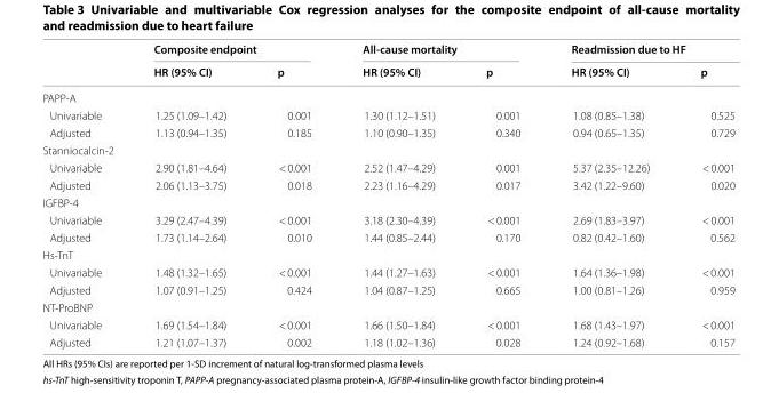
<table><thead><tr><td rowspan="2"></td><td colspan="2">Composite endpoint</td><td colspan="2">All‑cause mortality</td><td colspan="2">Readmission due to HF</td></tr><tr><td>HR (95% CI)</td><td>p</td><td>HR (95% CI)</td><td>p</td><td>HR (95% CI)</td><td>p</td></tr></thead><tbody><tr><td colspan="7">PAPP‑A</td></tr><tr><td>Univariable</td><td>1.25 (1.09–1.42)</td><td>0.001</td><td>1.30 (1.12–1.51)</td><td>0.001</td><td>1.08 (0.85–1.38)</td><td>0.525</td></tr><tr><td>Adjusted</td><td>1.13 (0.94–1.35)</td><td>0.185</td><td>1.10 (0.90–1.35)</td><td>0.340</td><td>0.94 (0.65–1.35)</td><td>0.729</td></tr><tr><td colspan="7">Stanniocalcin‑2</td></tr><tr><td>Univariable</td><td>2.90 (1.81–4.64)</td><td>&lt; 0.001</td><td>2.52 (1.47–4.29)</td><td>0.001</td><td>5.37 (2.35–12.26)</td><td>&lt; 0.001</td></tr><tr><td>Adjusted</td><td>2.06 (1.13–3.75)</td><td>0.018</td><td>2.23 (1.16–4.29)</td><td>0.017</td><td>3.42 (1.22–9.60)</td><td>0.020</td></tr><tr><td colspan="7">IGFBP‑4</td></tr><tr><td>Univariable</td><td>3.29 (2.47–4.39)</td><td>&lt; 0.001</td><td>3.18 (2.30–4.39)</td><td>&lt; 0.001</td><td>2.69 (1.83–3.97)</td><td>&lt; 0.001</td></tr><tr><td>Adjusted</td><td>1.73 (1.14–2.64)</td><td>0.010</td><td>1.44 (0.85–2.44)</td><td>0.170</td><td>0.82 (0.42–1.60)</td><td>0.562</td></tr><tr><td colspan="7">Hs‑TnT</td></tr><tr><td>Univariable</td><td>1.48 (1.32–1.65)</td><td>&lt; 0.001</td><td>1.44 (1.27–1.63)</td><td>&lt; 0.001</td><td>1.64 (1.36–1.98)</td><td>&lt; 0.001</td></tr><tr><td>Adjusted</td><td>1.07 (0.91–1.25)</td><td>0.424</td><td>1.04 (0.87–1.25)</td><td>0.665</td><td>1.00 (0.81–1.26)</td><td>0.959</td></tr><tr><td colspan="7">NT‑ProBNP</td></tr><tr><td>Univariable</td><td>1.69 (1.54–1.84)</td><td>&lt; 0.001</td><td>1.66 (1.50–1.84)</td><td>&lt; 0.001</td><td>1.68 (1.43–1.97)</td><td>&lt; 0.001</td></tr><tr><td>Adjusted</td><td>1.21 (1.07–1.37)</td><td>0.002</td><td>1.18 (1.02–1.36)</td><td>0.028</td><td>1.24 (0.92–1.68)</td><td>0.157</td></tr></tbody></table>